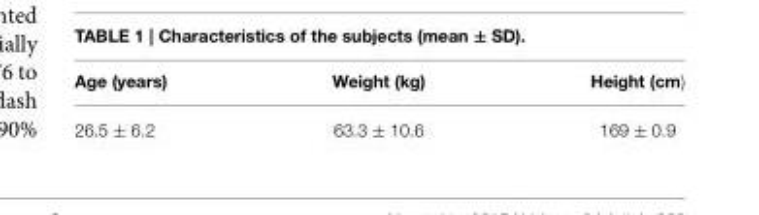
<table><thead><tr><td>Age (years)</td><td>Weight (kg)</td><td>Height (cm)</td></tr></thead><tbody><tr><td>26.5 ± 6.2</td><td>63.3 ± 10.6</td><td>169 ± 0.9</td></tr></tbody></table>